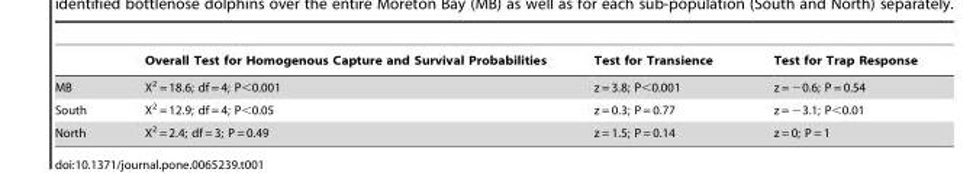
<table><thead><tr><td></td><td>Overall Test for Homogenous Capture and Survival Probabilities</td><td>Test for Transience</td><td>Test for Trap Response</td></tr></thead><tbody><tr><td>MB</td><td>X<sup>2</sup> = 18.6; df = 4; P&lt;0.001</td><td>z = 3.8; P&lt;0.001</td><td>z = −0.6; P = 0.54</td></tr><tr><td>South</td><td>X<sup>2</sup> = 12.9; df = 4; P&lt;0.05</td><td>z = 0.3; P = 0.77</td><td>z = −3.1; P&lt;0.01</td></tr><tr><td>North</td><td>X<sup>2</sup> = 2.4; df = 3; P = 0.49</td><td>z = 1.5; P = 0.14</td><td>z = 0; P = 1</td></tr></tbody></table>